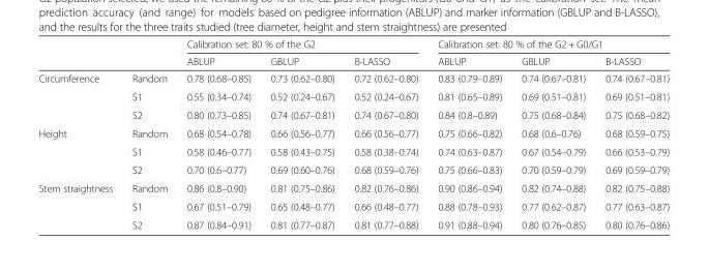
<table><thead><tr><td rowspan="2"></td><td rowspan="2"></td><td colspan="3">Calibration set: 80 % of the G2</td><td colspan="3">Calibration set: 80 % of the G2 + G0/G1</td></tr><tr><td>ABLUP</td><td>GBLUP</td><td>B-LASSO</td><td>ABLUP</td><td>GBLUP</td><td>B-LASSO</td></tr></thead><tbody><tr><td rowspan="3">Circumference</td><td>Random</td><td>0.78 (0.68–0.85)</td><td>0.73 (0.62–0.80)</td><td>0.72 (0.62–0.80)</td><td>0.83 (0.79–0.89)</td><td>0.74 (0.67–0.81)</td><td>0.74 (0.67–0.81)</td></tr><tr><td>S1</td><td>0.55 (0.34–0.74)</td><td>0.52 (0.24–0.67)</td><td>0.52 (0.24–0.67)</td><td>0.81 (0.65–0.89)</td><td>0.69 (0.51–0.81)</td><td>0.69 (0.51–0.81)</td></tr><tr><td>S2</td><td>0.80 (0.73–0.85)</td><td>0.74 (0.67–0.81)</td><td>0.74 (0.67–0.80)</td><td>0.84 (0.8–0.89)</td><td>0.75 (0.68–0.84)</td><td>0.75 (0.68–0.82)</td></tr><tr><td rowspan="3">Height</td><td>Random</td><td>0.68 (0.54–0.78)</td><td>0.66 (0.56–0.77)</td><td>0.66 (0.56–0.77)</td><td>0.75 (0.66–0.82)</td><td>0.68 (0.6–0.76)</td><td>0.68 (0.59–0.75)</td></tr><tr><td>S1</td><td>0.58 (0.46–0.77)</td><td>0.58 (0.43–0.75)</td><td>0.58 (0.38–0.74)</td><td>0.74 (0.63–0.87)</td><td>0.67 (0.54–0.79)</td><td>0.66 (0.53–0.79)</td></tr><tr><td>S2</td><td>0.70 (0.6–0.77)</td><td>0.69 (0.60–0.76)</td><td>0.68 (0.59–0.76)</td><td>0.75 (0.66–0.83)</td><td>0.70 (0.59–0.79)</td><td>0.69 (0.59–0.79)</td></tr><tr><td rowspan="3">Stem straightness</td><td>Random</td><td>0.86 (0.8–0.90)</td><td>0.81 (0.75–0.86)</td><td>0.82 (0.76–0.86)</td><td>0.90 (0.86–0.94)</td><td>0.82 (0.74–0.88)</td><td>0.82 (0.75–0.88)</td></tr><tr><td>S1</td><td>0.67 (0.51–0.79)</td><td>0.65 (0.48–0.77)</td><td>0.66 (0.48–0.77)</td><td>0.88 (0.78–0.93)</td><td>0.77 (0.62–0.87)</td><td>0.77 (0.63–0.87)</td></tr><tr><td>S2</td><td>0.87 (0.84–0.91)</td><td>0.81 (0.77–0.87)</td><td>0.81 (0.77–0.88)</td><td>0.91 (0.88–0.94)</td><td>0.80 (0.76–0.85)</td><td>0.80 (0.76–0.86)</td></tr></tbody></table>